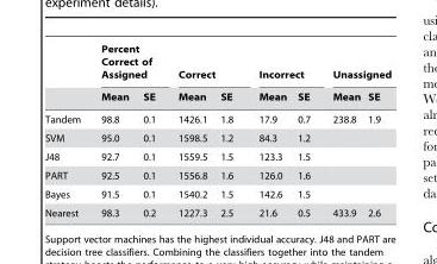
<table><thead><tr><td rowspan="2"></td><td colspan="2">Percent Correct of Assigned</td><td colspan="2">Correct</td><td colspan="2">Incorrect</td><td colspan="2">Unassigned</td></tr><tr><td>Mean</td><td>SE</td><td>Mean</td><td>SE</td><td>Mean</td><td>SE</td><td>Mean</td><td>SE</td></tr></thead><tbody><tr><td>Tandem</td><td>98.8</td><td>0.1</td><td>1426.1</td><td>1.8</td><td>17.9</td><td>0.7</td><td>238.8</td><td>1.9</td></tr><tr><td>SVM</td><td>95.0</td><td>0.1</td><td>1598.5</td><td>1.2</td><td>84.3</td><td>1.2</td><td></td><td></td></tr><tr><td>J48</td><td>92.7</td><td>0.1</td><td>1559.5</td><td>1.5</td><td>123.3</td><td>1.5</td><td></td><td></td></tr><tr><td>PART</td><td>92.5</td><td>0.1</td><td>1556.8</td><td>1.6</td><td>126.0</td><td>1.6</td><td></td><td></td></tr><tr><td>Bayes</td><td>91.5</td><td>0.1</td><td>1540.2</td><td>1.5</td><td>142.6</td><td>1.5</td><td></td><td></td></tr><tr><td>Nearest</td><td>98.3</td><td>0.2</td><td>1227.3</td><td>2.5</td><td>21.6</td><td>0.5</td><td>433.9</td><td>2.6</td></tr></tbody></table>